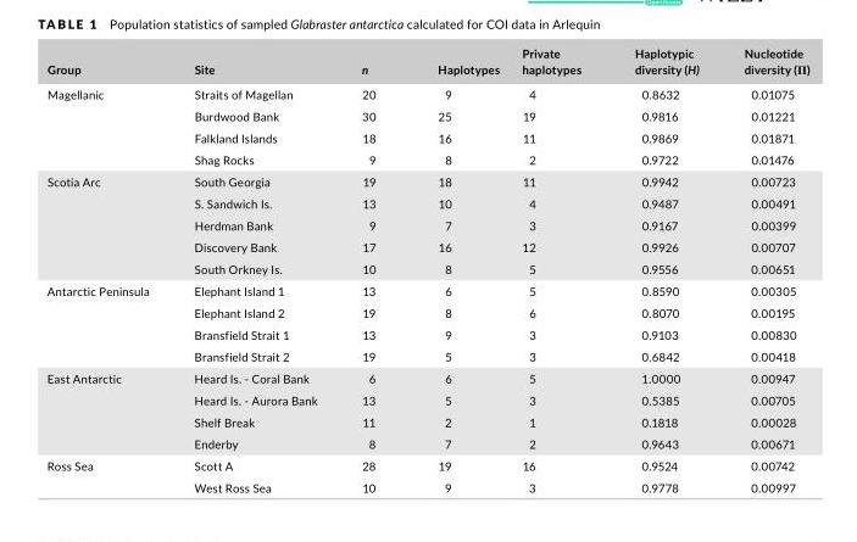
<table><thead><tr><td>Group</td><td>Site</td><td>n</td><td>Haplotypes</td><td>Private haplotypes</td><td>Haplotypic diversity (H)</td><td>Nucleotide diversity (Π)</td></tr></thead><tbody><tr><td rowspan="4">Magellanic</td><td>Straits of Magellan</td><td>20</td><td>9</td><td>4</td><td>0.8632</td><td>0.01075</td></tr><tr><td>Burdwood Bank</td><td>30</td><td>25</td><td>19</td><td>0.9816</td><td>0.01221</td></tr><tr><td>Falkland Islands</td><td>18</td><td>16</td><td>11</td><td>0.9869</td><td>0.01871</td></tr><tr><td>Shag Rocks</td><td>9</td><td>8</td><td>2</td><td>0.9722</td><td>0.01476</td></tr><tr><td rowspan="5">Scotia Arc</td><td>South Georgia</td><td>19</td><td>18</td><td>11</td><td>0.9942</td><td>0.00723</td></tr><tr><td>S. Sandwich Is.</td><td>13</td><td>10</td><td>4</td><td>0.9487</td><td>0.00491</td></tr><tr><td>Herdman Bank</td><td>9</td><td>7</td><td>3</td><td>0.9167</td><td>0.00399</td></tr><tr><td>Discovery Bank</td><td>17</td><td>16</td><td>12</td><td>0.9926</td><td>0.00707</td></tr><tr><td>South Orkney Is.</td><td>10</td><td>8</td><td>5</td><td>0.9556</td><td>0.00651</td></tr><tr><td rowspan="4">Antarctic Peninsula</td><td>Elephant Island 1</td><td>13</td><td>6</td><td>5</td><td>0.8590</td><td>0.00305</td></tr><tr><td>Elephant Island 2</td><td>19</td><td>8</td><td>6</td><td>0.8070</td><td>0.00195</td></tr><tr><td>Bransfield Strait 1</td><td>13</td><td>9</td><td>3</td><td>0.9103</td><td>0.00830</td></tr><tr><td>Bransfield Strait 2</td><td>19</td><td>5</td><td>3</td><td>0.6842</td><td>0.00418</td></tr><tr><td rowspan="4">East Antarctic</td><td>Heard Is. ‐ Coral Bank</td><td>6</td><td>6</td><td>5</td><td>1.0000</td><td>0.00947</td></tr><tr><td>Heard Is. ‐ Aurora Bank</td><td>13</td><td>5</td><td>3</td><td>0.5385</td><td>0.00705</td></tr><tr><td>Shelf Break</td><td>11</td><td>2</td><td>1</td><td>0.1818</td><td>0.00028</td></tr><tr><td>Enderby</td><td>8</td><td>7</td><td>2</td><td>0.9643</td><td>0.00671</td></tr><tr><td rowspan="2">Ross Sea</td><td>Scott A</td><td>28</td><td>19</td><td>16</td><td>0.9524</td><td>0.00742</td></tr><tr><td>West Ross Sea</td><td>10</td><td>9</td><td>3</td><td>0.9778</td><td>0.00997</td></tr></tbody></table>